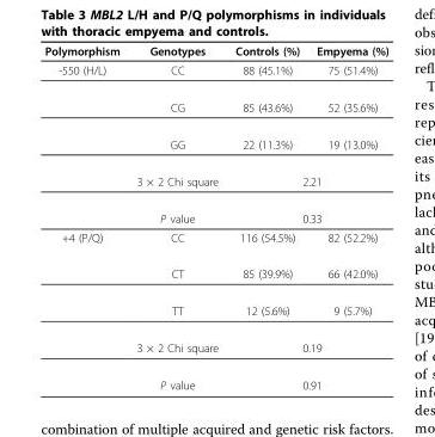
<table><thead><tr><td>Polymorphism</td><td>Genotypes</td><td>Controls (%)</td><td>Empyema (%)</td></tr></thead><tbody><tr><td rowspan="5">-550 (H/L)</td><td>CC</td><td>88 (45.1%)</td><td>75 (51.4%)</td></tr><tr><td>CG</td><td>85 (43.6%)</td><td>52 (35.6%)</td></tr><tr><td>GG</td><td>22 (11.3%)</td><td>19 (13.0%)</td></tr><tr><td>3 × 2 Chi square</td><td colspan="2">2.21</td></tr><tr><td>P value</td><td colspan="2">0.33</td></tr><tr><td rowspan="5">+4 (P/Q)</td><td>CC</td><td>116 (54.5%)</td><td>82 (52.2%)</td></tr><tr><td>CT</td><td>85 (39.9%)</td><td>66 (42.0%)</td></tr><tr><td>TT</td><td>12 (5.6%)</td><td>9 (5.7%)</td></tr><tr><td>3 × 2 Chi square</td><td colspan="2">0.19</td></tr><tr><td>P value</td><td colspan="2">0.91</td></tr></tbody></table>